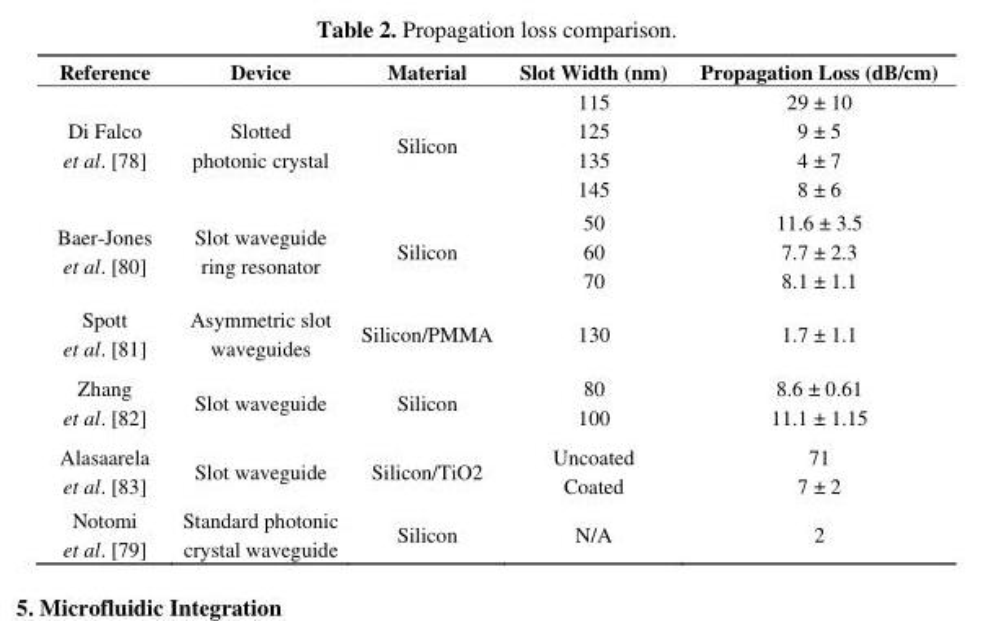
<table><thead><tr><td>Reference</td><td>Device</td><td>Material</td><td>Slot Width (nm)</td><td>Propagation Loss (dB/cm)</td></tr></thead><tbody><tr><td rowspan="4">Di Falco et al. [78]</td><td rowspan="4">Slotted photonic crystal</td><td rowspan="4">Silicon</td><td>115</td><td>29 ± 10</td></tr><tr><td>125</td><td>9 ± 5</td></tr><tr><td>135</td><td>4 ± 7</td></tr><tr><td>145</td><td>8 ± 6</td></tr><tr><td rowspan="3">Baer-Jones et al. [80]</td><td rowspan="3">Slot waveguide ring resonator</td><td rowspan="3">Silicon</td><td>50</td><td>11.6 ± 3.5</td></tr><tr><td>60</td><td>7.7 ± 2.3</td></tr><tr><td>70</td><td>8.1 ± 1.1</td></tr><tr><td>Spott et al. [81]</td><td>Asymmetric slot waveguides</td><td>Silicon/PMMA</td><td>130</td><td>1.7 ± 1.1</td></tr><tr><td rowspan="2">Zhang et al. [82]</td><td rowspan="2">Slot waveguide</td><td rowspan="2">Silicon</td><td>80</td><td>8.6 ± 0.61</td></tr><tr><td>100</td><td>11.1 ± 1.15</td></tr><tr><td rowspan="2">Alasaarela et al. [83]</td><td rowspan="2">Slot waveguide</td><td rowspan="2">Silicon/TiO2</td><td>Uncoated</td><td>71</td></tr><tr><td>Coated</td><td>7 ± 2</td></tr><tr><td>Notomi et al. [79]</td><td>Standard photonic crystal waveguide</td><td>Silicon</td><td>N/A</td><td>2</td></tr></tbody></table>